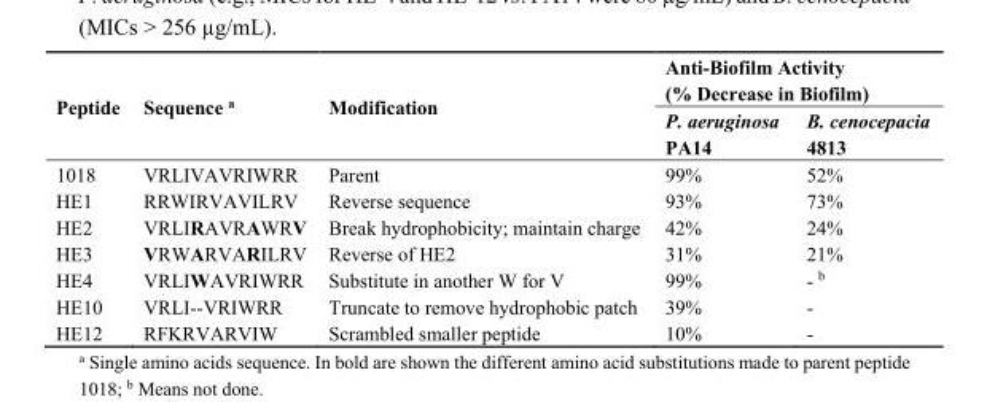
<table><thead><tr><td rowspan="2">Peptide</td><td rowspan="2">Sequence <sup>a</sup></td><td rowspan="2">Modification</td><td colspan="2">Anti-Biofilm Activity (% Decrease in Biofilm)</td></tr><tr><td>P. aeruginosa PA14</td><td>B. cenocepacia 4813</td></tr></thead><tbody><tr><td>1018</td><td>VRLIVAVRIWRR</td><td>Parent</td><td>99%</td><td>52%</td></tr><tr><td>HE1</td><td>RRWIRVAVILRV</td><td>Reverse sequence</td><td>93%</td><td>73%</td></tr><tr><td>HE2</td><td>VRLIRAVRAWRV</td><td>Break hydrophobicity; maintain charge</td><td>42%</td><td>24%</td></tr><tr><td>HE3</td><td>VRWARVARILRV</td><td>Reverse of HE2</td><td>31%</td><td>21%</td></tr><tr><td>HE4</td><td>VRLIWAVRIWRR</td><td>Substitute in another W for V</td><td>99%</td><td>- <sup>b</sup></td></tr><tr><td>HE10</td><td>VRLI--VRIWRR</td><td>Truncate to remove hydrophobic patch</td><td>39%</td><td>-</td></tr><tr><td>HE12</td><td>RFKRVARVIW</td><td>Scrambled smaller peptide</td><td>10%</td><td>-</td></tr></tbody></table>